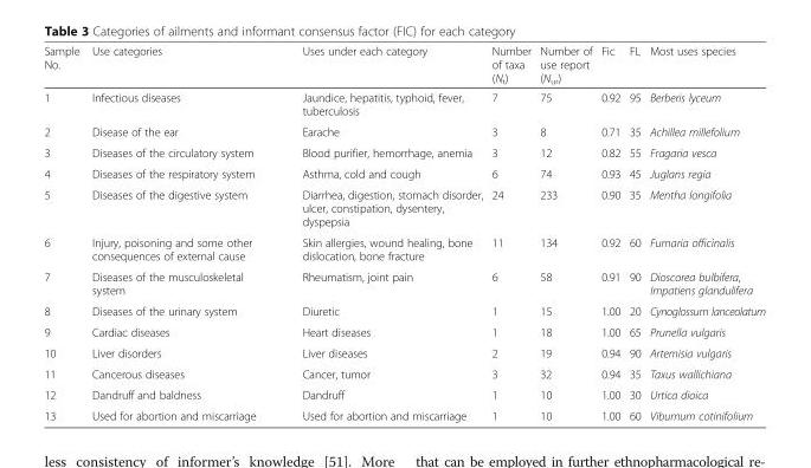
<table><thead><tr><td>Sample No.</td><td>Use categories</td><td>Uses under each category</td><td>Number of taxa (N<sub>t</sub>)</td><td>Number of use report (N<sub>ur</sub>)</td><td>Fic</td><td>FL</td><td>Most uses species</td></tr></thead><tbody><tr><td>1</td><td>Infectious diseases</td><td>Jaundice, hepatitis, typhoid, fever, tuberculosis</td><td>7</td><td>75</td><td>0.92</td><td>95</td><td>Berberis lyceum</td></tr><tr><td>2</td><td>Disease of the ear</td><td>Earache</td><td>3</td><td>8</td><td>0.71</td><td>35</td><td>Achillea millefolium</td></tr><tr><td>3</td><td>Diseases of the circulatory system</td><td>Blood purifier, hemorrhage, anemia</td><td>3</td><td>12</td><td>0.82</td><td>55</td><td>Fragaria vesca</td></tr><tr><td>4</td><td>Diseases of the respiratory system</td><td>Asthma, cold and cough</td><td>6</td><td>74</td><td>0.93</td><td>45</td><td>Juglans regia</td></tr><tr><td>5</td><td>Diseases of the digestive system</td><td>Diarrhea, digestion, stomach disorder, ulcer, constipation, dysentery, dyspepsia</td><td>24</td><td>233</td><td>0.90</td><td>35</td><td>Mentha longifolia</td></tr><tr><td>6</td><td>Injury, poisoning and some other consequences of external cause</td><td>Skin allergies, wound healing, bone dislocation, bone fracture</td><td>11</td><td>134</td><td>0.92</td><td>60</td><td>Fumaria officinalis</td></tr><tr><td>7</td><td>Diseases of the musculoskeletal system</td><td>Rheumatism, joint pain</td><td>6</td><td>58</td><td>0.91</td><td>90</td><td>Dioscorea bulbifera, Impatiens glandulifera</td></tr><tr><td>8</td><td>Diseases of the urinary system</td><td>Diuretic</td><td>1</td><td>15</td><td>1.00</td><td>20</td><td>Cynoglossum lanceolatum</td></tr><tr><td>9</td><td>Cardiac diseases</td><td>Heart diseases</td><td>1</td><td>18</td><td>1.00</td><td>65</td><td>Prunella vulgaris</td></tr><tr><td>10</td><td>Liver disorders</td><td>Liver diseases</td><td>2</td><td>19</td><td>0.94</td><td>90</td><td>Artemisia vulgaris</td></tr><tr><td>11</td><td>Cancerous diseases</td><td>Cancer, tumor</td><td>3</td><td>32</td><td>0.94</td><td>35</td><td>Taxus wallichiana</td></tr><tr><td>12</td><td>Dandruff and baldness</td><td>Dandruff</td><td>1</td><td>10</td><td>1.00</td><td>30</td><td>Urtica dioica</td></tr><tr><td>13</td><td>Used for abortion and miscarriage</td><td>Used for abortion and miscarriage</td><td>1</td><td>10</td><td>1.00</td><td>60</td><td>Viburnum cotinifolium</td></tr></tbody></table>